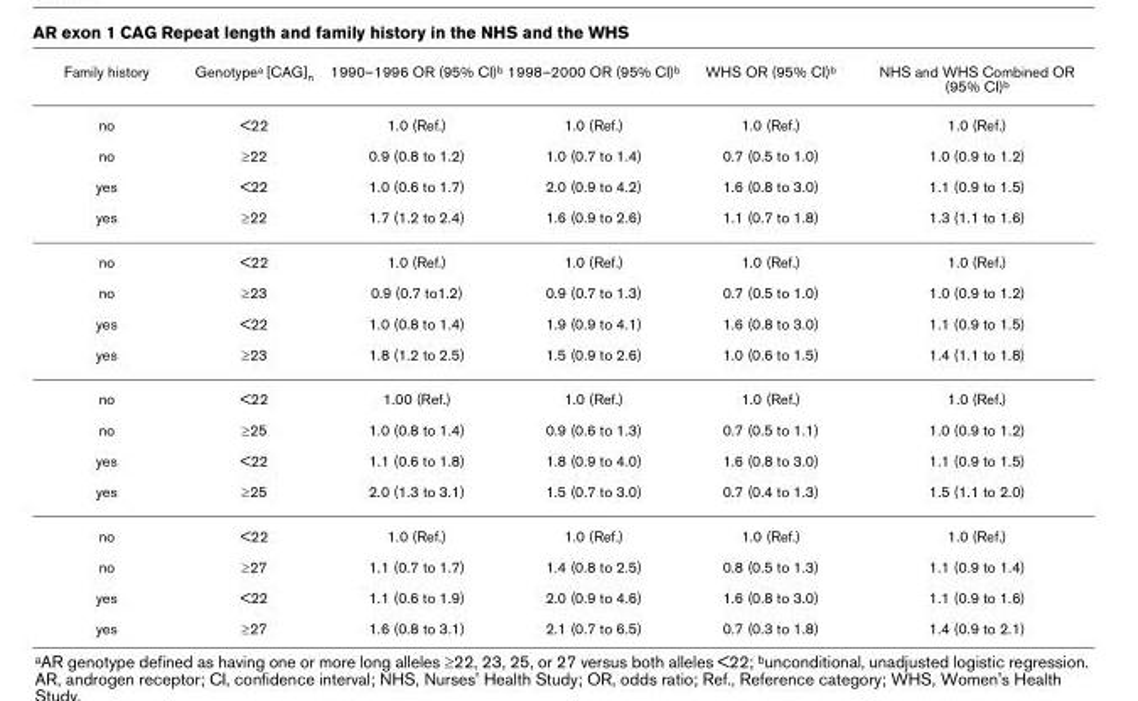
<table><thead><tr><td>Family history</td><td>Genotypea [CAG]n</td><td>1990–1996 OR (95% CI)b</td><td>1998–2000 OR (95% CI)b</td><td>WHS OR (95% CI)b</td><td>NHS and WHS Combined OR (95% CI)b</td></tr></thead><tbody><tr><td>no</td><td>&lt;22</td><td>1.0 (Ref.)</td><td>1.0 (Ref.)</td><td>1.0 (Ref.)</td><td>1.0 (Ref.)</td></tr><tr><td>no</td><td>≥22</td><td>0.9 (0.8 to 1.2)</td><td>1.0 (0.7 to 1.4)</td><td>0.7 (0.5 to 1.0)</td><td>1.0 (0.9 to 1.2)</td></tr><tr><td>yes</td><td>&lt;22</td><td>1.0 (0.6 to 1.7)</td><td>2.0 (0.9 to 4.2)</td><td>1.6 (0.8 to 3.0)</td><td>1.1 (0.9 to 1.5)</td></tr><tr><td>yes</td><td>≥22</td><td>1.7 (1.2 to 2.4)</td><td>1.6 (0.9 to 2.6)</td><td>1.1 (0.7 to 1.8)</td><td>1.3 (1.1 to 1.6)</td></tr><tr><td>no</td><td>&lt;22</td><td>1.0 (Ref.)</td><td>1.0 (Ref.)</td><td>1.0 (Ref.)</td><td>1.0 (Ref.)</td></tr><tr><td>no</td><td>≥23</td><td>0.9 (0.7 to1.2)</td><td>0.9 (0.7 to 1.3)</td><td>0.7 (0.5 to 1.0)</td><td>1.0 (0.9 to 1.2)</td></tr><tr><td>yes</td><td>&lt;22</td><td>1.0 (0.8 to 1.4)</td><td>1.9 (0.9 to 4.1)</td><td>1.6 (0.8 to 3.0)</td><td>1.1 (0.9 to 1.5)</td></tr><tr><td>yes</td><td>≥23</td><td>1.8 (1.2 to 2.5)</td><td>1.5 (0.9 to 2.6)</td><td>1.0 (0.6 to 1.5)</td><td>1.4 (1.1 to 1.8)</td></tr><tr><td>no</td><td>&lt;22</td><td>1.00 (Ref.)</td><td>1.0 (Ref.)</td><td>1.0 (Ref.)</td><td>1.0 (Ref.)</td></tr><tr><td>no</td><td>≥25</td><td>1.0 (0.8 to 1.4)</td><td>0.9 (0.6 to 1.3)</td><td>0.7 (0.5 to 1.1)</td><td>1.0 (0.9 to 1.2)</td></tr><tr><td>yes</td><td>&lt;22</td><td>1.1 (0.6 to 1.8)</td><td>1.8 (0.9 to 4.0)</td><td>1.6 (0.8 to 3.0)</td><td>1.1 (0.9 to 1.5)</td></tr><tr><td>yes</td><td>≥25</td><td>2.0 (1.3 to 3.1)</td><td>1.5 (0.7 to 3.0)</td><td>0.7 (0.4 to 1.3)</td><td>1.5 (1.1 to 2.0)</td></tr><tr><td>no</td><td>&lt;22</td><td>1.0 (Ref.)</td><td>1.0 (Ref.)</td><td>1.0 (Ref.)</td><td>1.0 (Ref.)</td></tr><tr><td>no</td><td>≥27</td><td>1.1 (0.7 to 1.7)</td><td>1.4 (0.8 to 2.5)</td><td>0.8 (0.5 to 1.3)</td><td>1.1 (0.9 to 1.4)</td></tr><tr><td>yes</td><td>&lt;22</td><td>1.1 (0.6 to 1.9)</td><td>2.0 (0.9 to 4.6)</td><td>1.6 (0.8 to 3.0)</td><td>1.1 (0.9 to 1.6)</td></tr><tr><td>yes</td><td>≥27</td><td>1.6 (0.8 to 3.1)</td><td>2.1 (0.7 to 6.5)</td><td>0.7 (0.3 to 1.8)</td><td>1.4 (0.9 to 2.1)</td></tr></tbody></table>